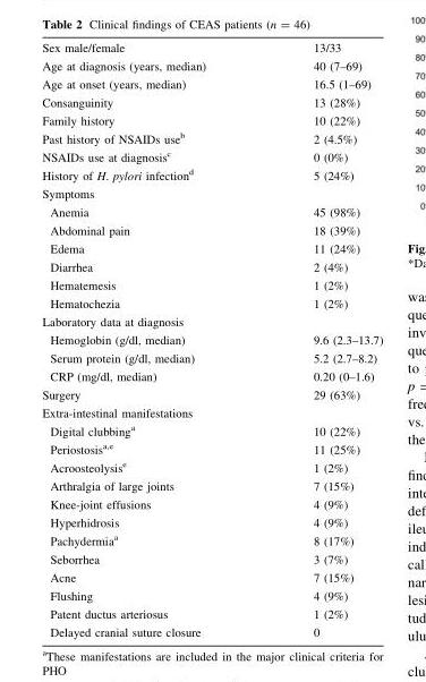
<table><tbody><tr><td>Sex male/female</td><td>13/33</td></tr><tr><td>Age at diagnosis (years, median)</td><td>40 (7–69)</td></tr><tr><td>Age at onset (years, median)</td><td>16.5 (1–69)</td></tr><tr><td>Consanguinity</td><td>13 (28%)</td></tr><tr><td>Family history</td><td>10 (22%)</td></tr><tr><td>Past history of NSAIDs use<sup>b</sup></td><td>2 (4.5%)</td></tr><tr><td>NSAIDs use at diagnosis<sup>c</sup></td><td>0 (0%)</td></tr><tr><td>History of H. pylori infection<sup>d</sup></td><td>5 (24%)</td></tr><tr><td colspan="2">Symptoms</td></tr><tr><td>Anemia</td><td>45 (98%)</td></tr><tr><td>Abdominal pain</td><td>18 (39%)</td></tr><tr><td>Edema</td><td>11 (24%)</td></tr><tr><td>Diarrhea</td><td>2 (4%)</td></tr><tr><td>Hematemesis</td><td>1 (2%)</td></tr><tr><td>Hematochezia</td><td>1 (2%)</td></tr><tr><td colspan="2">Laboratory data at diagnosis</td></tr><tr><td>Hemoglobin (g/dl, median)</td><td>9.6 (2.3–13.7)</td></tr><tr><td>Serum protein (g/dl, median)</td><td>5.2 (2.7–8.2)</td></tr><tr><td>CRP (mg/dl, median)</td><td>0.20 (0–1.6)</td></tr><tr><td>Surgery</td><td>29 (63%)</td></tr><tr><td colspan="2">Extra-intestinal manifestations</td></tr><tr><td>Digital clubbing<sup>a</sup></td><td>10 (22%)</td></tr><tr><td>Periostosis<sup>a,e</sup></td><td>11 (25%)</td></tr><tr><td>Acroosteolysis<sup>e</sup></td><td>1 (2%)</td></tr><tr><td>Arthralgia of large joints</td><td>7 (15%)</td></tr><tr><td>Knee-joint effusions</td><td>4 (9%)</td></tr><tr><td>Hyperhidrosis</td><td>4 (9%)</td></tr><tr><td>Pachydermia<sup>a</sup></td><td>8 (17%)</td></tr><tr><td>Seborrhea</td><td>3 (7%)</td></tr><tr><td>Acne</td><td>7 (15%)</td></tr><tr><td>Flushing</td><td>4 (9%)</td></tr><tr><td>Patent ductus arteriosus</td><td>1 (2%)</td></tr><tr><td>Delayed cranial suture closure</td><td>0</td></tr></tbody></table>